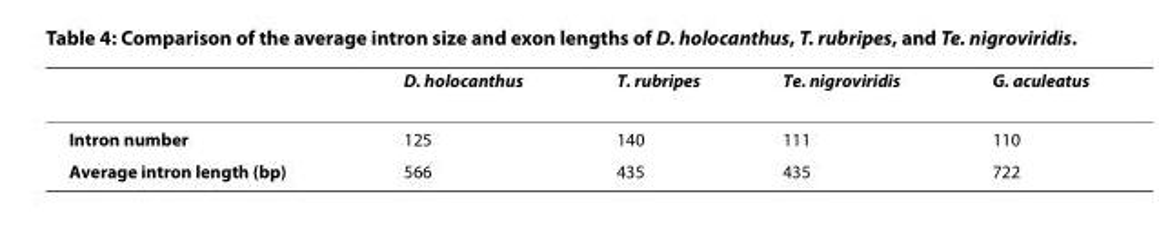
<table><thead><tr><td></td><td>D. holocanthus</td><td>T. rubripes</td><td>Te. nigroviridis</td><td>G. aculeatus</td></tr></thead><tbody><tr><td>Intron number</td><td>125</td><td>140</td><td>111</td><td>110</td></tr><tr><td>Average intron length (bp)</td><td>566</td><td>435</td><td>435</td><td>722</td></tr></tbody></table>